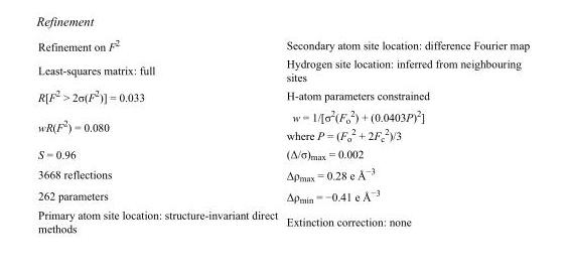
<table><tbody><tr><td>Refinement on F<sup>2</sup></td><td>Secondary atom site location: difference Fourier map</td></tr><tr><td>Least-squares matrix: full</td><td>Hydrogen site location: inferred from neighbouring sites</td></tr><tr><td>R[F<sup>2</sup> &gt; 2σ(F<sup>2</sup>)] = 0.033</td><td>H-atom parameters constrained</td></tr><tr><td>wR(F<sup>2</sup>) = 0.080</td><td>w = 1/[σ<sup>2</sup>(F<sub>o</sub> <sup>2</sup>) + (0.0403P)<sup>2</sup>] where P = (F<sub>o</sub> <sup>2</sup> + 2F<sub>c</sub> <sup>2</sup>)/3</td></tr><tr><td>S = 0.96</td><td>(Δ/σ)<sub>max</sub> = 0.002</td></tr><tr><td>3668 reflections</td><td>Δρ<sub>max</sub> = 0.28 e Å<sup>−3</sup></td></tr><tr><td>262 parameters</td><td>Δρ<sub>min</sub> = −0.41 e Å<sup>−3</sup></td></tr><tr><td>Primary atom site location: structure-invariant direct methods</td><td>Extinction correction: none</td></tr></tbody></table>